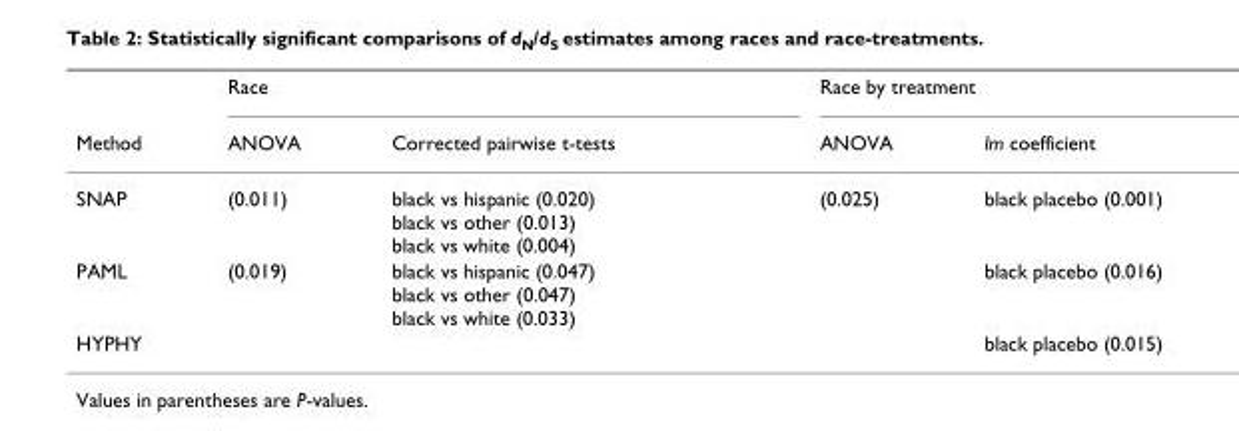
<table><thead><tr><td rowspan="2">Method</td><td colspan="2">Race</td><td colspan="2">Race by treatment</td></tr><tr><td>ANOVA</td><td>Corrected pairwise t-tests</td><td>ANOVA</td><td>lm coefficient</td></tr></thead><tbody><tr><td>SNAP</td><td>(0.011)</td><td>black vs hispanic (0.020) black vs other (0.013) black vs white (0.004)</td><td>(0.025)</td><td>black placebo (0.001)</td></tr><tr><td>PAML</td><td>(0.019)</td><td>black vs hispanic (0.047) black vs other (0.047) black vs white (0.033)</td><td></td><td>black placebo (0.016)</td></tr><tr><td>HYPHY</td><td></td><td></td><td></td><td>black placebo (0.015)</td></tr></tbody></table>